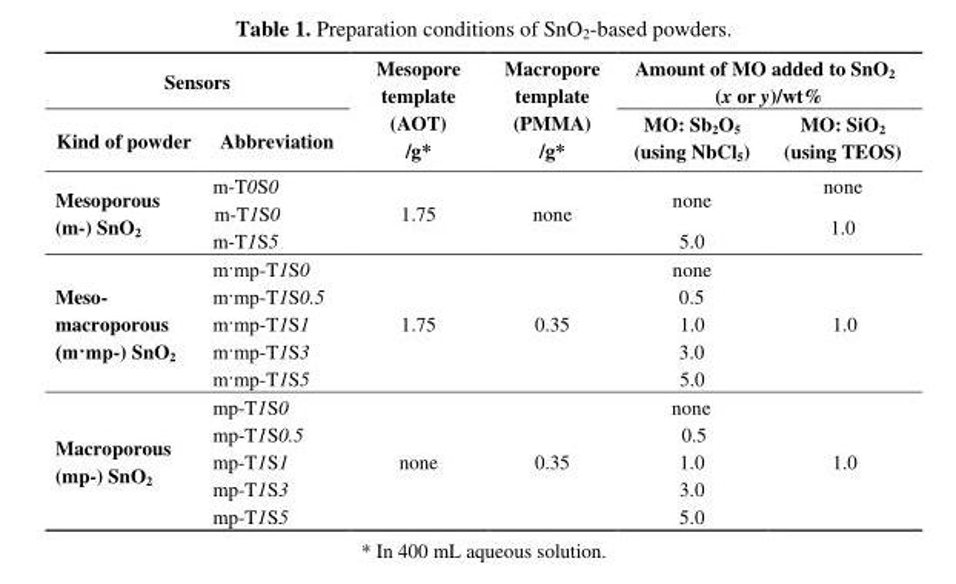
<table><thead><tr><td colspan="2">Sensors</td><td rowspan="2">Mesopore template (AOT) /g*</td><td rowspan="2">Macropore template (PMMA) /g*</td><td colspan="2">Amount of MO added to SnO<sub>2</sub> (x or y)/wt%</td></tr><tr><td>Kind of powder</td><td>Abbreviation</td><td>MO: Sb<sub>2</sub>O<sub>5</sub> (using NbCl<sub>5</sub>)</td><td>MO: SiO<sub>2</sub> (using TEOS)</td></tr></thead><tbody><tr><td rowspan="3">Mesoporous (m-) SnO<sub>2</sub></td><td>m-T0S0</td><td rowspan="3">1.75</td><td rowspan="3">none</td><td rowspan="2">none</td><td>none</td></tr><tr><td>m-T1S0</td><td rowspan="2">1.0</td></tr><tr><td>m-T1S5</td><td>5.0</td></tr><tr><td rowspan="5">Meso- macroporous (m·mp-) SnO<sub>2</sub></td><td>m·mp-T1S0</td><td rowspan="5">1.75</td><td rowspan="5">0.35</td><td>none</td><td rowspan="5">1.0</td></tr><tr><td>m·mp-T1S0.5</td><td>0.5</td></tr><tr><td>m·mp-T1S1</td><td>1.0</td></tr><tr><td>m·mp-T1S3</td><td>3.0</td></tr><tr><td>m·mp-T1S5</td><td>5.0</td></tr><tr><td rowspan="5">Macroporous (mp-) SnO<sub>2</sub></td><td>mp-T1S0</td><td rowspan="5">none</td><td rowspan="5">0.35</td><td>none</td><td rowspan="5">1.0</td></tr><tr><td>mp-T1S0.5</td><td>0.5</td></tr><tr><td>mp-T1S1</td><td>1.0</td></tr><tr><td>mp-T1S3</td><td>3.0</td></tr><tr><td>mp-T1S5</td><td>5.0</td></tr></tbody></table>